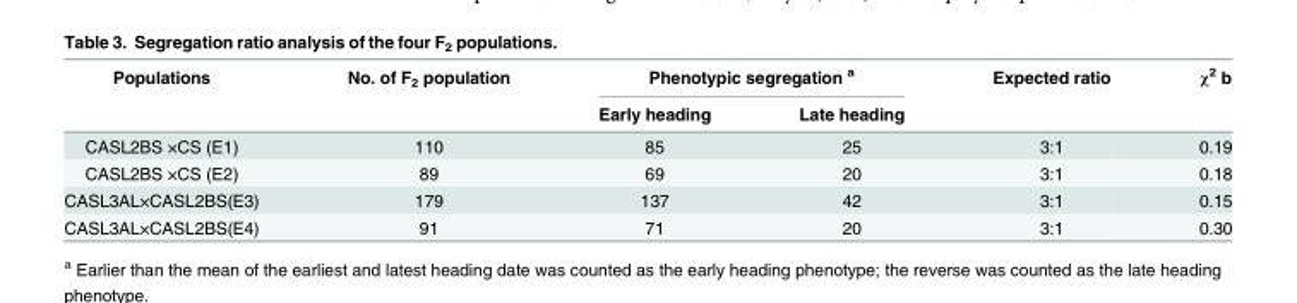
<table><thead><tr><td rowspan="2">Populations</td><td rowspan="2">No. of F<sub>2</sub> population</td><td colspan="2">Phenotypic segregation <sup>a</sup></td><td rowspan="2">Expected ratio</td><td rowspan="2">χ<sup>2</sup> b</td></tr><tr><td>Early heading</td><td>Late heading</td></tr></thead><tbody><tr><td>CASL2BS ×CS (E1)</td><td>110</td><td>85</td><td>25</td><td>3:1</td><td>0.19</td></tr><tr><td>CASL2BS ×CS (E2)</td><td>89</td><td>69</td><td>20</td><td>3:1</td><td>0.18</td></tr><tr><td>CASL3AL×CASL2BS(E3)</td><td>179</td><td>137</td><td>42</td><td>3:1</td><td>0.15</td></tr><tr><td>CASL3AL×CASL2BS(E4)</td><td>91</td><td>71</td><td>20</td><td>3:1</td><td>0.30</td></tr></tbody></table>